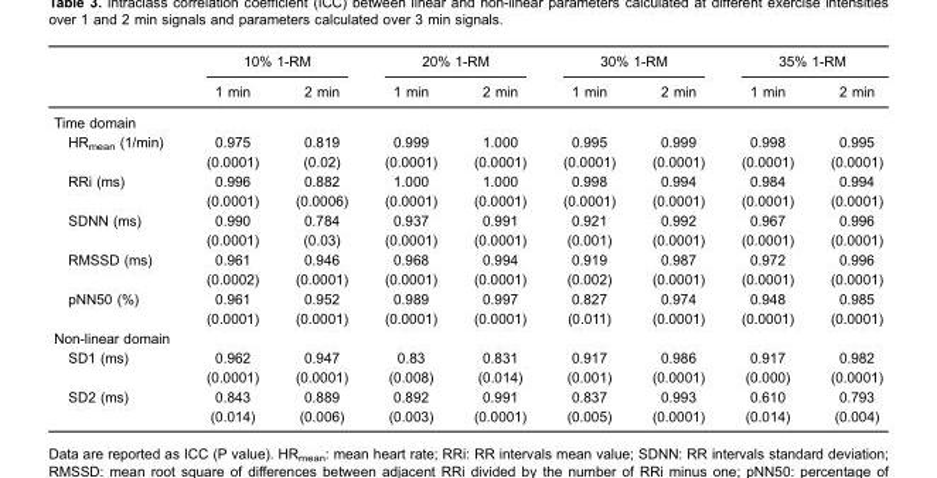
<table><thead><tr><td rowspan="2"></td><td colspan="2">10% 1-RM</td><td colspan="2">20% 1-RM</td><td colspan="2">30% 1-RM</td><td colspan="2">35% 1-RM</td></tr><tr><td>1 min</td><td>2 min</td><td>1 min</td><td>2 min</td><td>1 min</td><td>2 min</td><td>1 min</td><td>2 min</td></tr></thead><tbody><tr><td colspan="9">Time domain</td></tr><tr><td rowspan="2">HR<sub>mean</sub> (1/min)</td><td>0.975</td><td>0.819</td><td>0.999</td><td>1.000</td><td>0.995</td><td>0.999</td><td>0.998</td><td>0.995</td></tr><tr><td>(0.0001)</td><td>(0.02)</td><td>(0.0001)</td><td>(0.0001)</td><td>(0.0001)</td><td>(0.0001)</td><td>(0.0001)</td><td>(0.0001)</td></tr><tr><td rowspan="2">RRi (ms)</td><td>0.996</td><td>0.882</td><td>1.000</td><td>1.000</td><td>0.998</td><td>0.994</td><td>0.984</td><td>0.994</td></tr><tr><td>(0.0001)</td><td>(0.0006)</td><td>(0.0001)</td><td>(0.0001)</td><td>(0.0001)</td><td>(0.0001)</td><td>(0.0001)</td><td>(0.0001)</td></tr><tr><td rowspan="2">SDNN (ms)</td><td>0.990</td><td>0.784</td><td>0.937</td><td>0.991</td><td>0.921</td><td>0.992</td><td>0.967</td><td>0.996</td></tr><tr><td>(0.0001)</td><td>(0.03)</td><td>(0.0001)</td><td>(0.0001)</td><td>(0.001)</td><td>(0.0001)</td><td>(0.0001)</td><td>(0.0001)</td></tr><tr><td rowspan="2">RMSSD (ms)</td><td>0.961</td><td>0.946</td><td>0.968</td><td>0.994</td><td>0.919</td><td>0.987</td><td>0.972</td><td>0.996</td></tr><tr><td>(0.0002)</td><td>(0.0001)</td><td>(0.0001)</td><td>(0.0001)</td><td>(0.002)</td><td>(0.0001)</td><td>(0.0001)</td><td>(0.0001)</td></tr><tr><td rowspan="2">pNN50 (%)</td><td>0.961</td><td>0.952</td><td>0.989</td><td>0.997</td><td>0.827</td><td>0.974</td><td>0.948</td><td>0.985</td></tr><tr><td>(0.0001)</td><td>(0.0001)</td><td>(0.0001)</td><td>(0.0001)</td><td>(0.011)</td><td>(0.0001)</td><td>(0.0001)</td><td>(0.0001)</td></tr><tr><td colspan="9">Non-linear domain</td></tr><tr><td rowspan="2">SD1 (ms)</td><td>0.962</td><td>0.947</td><td>0.83</td><td>0.831</td><td>0.917</td><td>0.986</td><td>0.917</td><td>0.982</td></tr><tr><td>(0.0001)</td><td>(0.0001)</td><td>(0.008)</td><td>(0.014)</td><td>(0.001)</td><td>(0.0001)</td><td>(0.000)</td><td>(0.0001)</td></tr><tr><td rowspan="2">SD2 (ms)</td><td>0.843</td><td>0.889</td><td>0.892</td><td>0.991</td><td>0.837</td><td>0.993</td><td>0.610</td><td>0.793</td></tr><tr><td>(0.014)</td><td>(0.006)</td><td>(0.003)</td><td>(0.0001)</td><td>(0.005)</td><td>(0.0001)</td><td>(0.014)</td><td>(0.004)</td></tr></tbody></table>